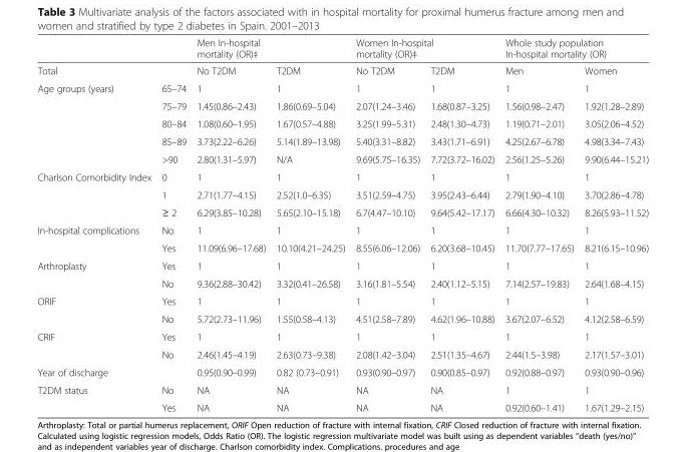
<table><thead><tr><td rowspan="2">Total</td><td rowspan="2"></td><td colspan="2">Men In-hospital mortality (OR)‡</td><td colspan="2">Women In-hospital mortality (OR)‡</td><td colspan="2">Whole study population In-hospital mortality (OR)</td></tr><tr><td>No T2DM</td><td>T2DM</td><td>No T2DM</td><td>T2DM</td><td>Men</td><td>Women</td></tr></thead><tbody><tr><td rowspan="5">Age groups (years)</td><td>65–74</td><td>1</td><td>1</td><td>1</td><td>1</td><td>1</td><td>1</td></tr><tr><td>75–79</td><td>1.45(0.86–2.43)</td><td>1.86(0.69–5.04)</td><td>2.07(1.24–3.46)</td><td>1.68(0.87–3.25)</td><td>1.56(0.98–2.47)</td><td>1.92(1.28–2.89)</td></tr><tr><td>80–84</td><td>1.08(0.60–1.95)</td><td>1.67(0.57–4.88)</td><td>3.25(1.99–5.31)</td><td>2.48(1.30–4.73)</td><td>1.19(0.71–2.01)</td><td>3.05(2.06–4.52)</td></tr><tr><td>85–89</td><td>3.73(2.22–6.26)</td><td>5.14(1.89–13.98)</td><td>5.40(3.31–8.82)</td><td>3.43(1.71–6.91)</td><td>4.25(2.67–6.78)</td><td>4.98(3.34–7.43)</td></tr><tr><td>&gt;90</td><td>2.80(1.31–5.97)</td><td>N/A</td><td>9.69(5.75–16.35)</td><td>7.72(3.72–16.02)</td><td>2.56(1.25–5.26)</td><td>9.90(6.44–15.21)</td></tr><tr><td rowspan="3">Charlson Comorbidity Index</td><td>0</td><td>1</td><td>1</td><td>1</td><td>1</td><td>1</td><td>1</td></tr><tr><td>1</td><td>2.71(1.77–4.15)</td><td>2.52(1.0–6.35)</td><td>3.51(2.59–4.75)</td><td>3.95(2.43–6.44)</td><td>2.79(1.90–4.10)</td><td>3.70(2.86–4.78)</td></tr><tr><td>≥ 2</td><td>6.29(3.85–10.28)</td><td>5.65(2.10–15.18)</td><td>6.7(4.47–10.10)</td><td>9.64(5.42–17.17)</td><td>6.66(4.30–10.32)</td><td>8.26(5.93–11.52)</td></tr><tr><td rowspan="2">In-hospital complications</td><td>No</td><td>1</td><td>1</td><td>1</td><td>1</td><td>1</td><td>1</td></tr><tr><td>Yes</td><td>11.09(6.96–17.68)</td><td>10.10(4.21–24.25)</td><td>8.55(6.06–12.06)</td><td>6.20(3.68–10.45)</td><td>11.70(7.77–17.65)</td><td>8.21(6.15–10.96)</td></tr><tr><td rowspan="2">Arthroplasty</td><td>Yes</td><td>1</td><td>1</td><td>1</td><td>1</td><td>1</td><td>1</td></tr><tr><td>No</td><td>9.36(2.88–30.42)</td><td>3.32(0.41–26.58)</td><td>3.16(1.81–5.54)</td><td>2.40(1.12–5.15)</td><td>7.14(2.57–19.83)</td><td>2.64(1.68–4.15)</td></tr><tr><td rowspan="2">ORIF</td><td>Yes</td><td>1</td><td>1</td><td>1</td><td>1</td><td>1</td><td>1</td></tr><tr><td>No</td><td>5.72(2.73–11.96)</td><td>1.55(0.58–4.13)</td><td>4.51(2.58–7.89)</td><td>4.62(1.96–10.88)</td><td>3.67(2.07–6.52)</td><td>4.12(2.58–6.59)</td></tr><tr><td rowspan="2">CRIF</td><td>Yes</td><td>1</td><td>1</td><td>1</td><td>1</td><td>1</td><td>1</td></tr><tr><td>No</td><td>2.46(1.45–4.19)</td><td>2.63(0.73–9.38)</td><td>2.08(1.42–3.04)</td><td>2.51(1.35–4.67)</td><td>2.44(1.5–3.98)</td><td>2.17(1.57–3.01)</td></tr><tr><td>Year of discharge</td><td></td><td>0.95(0.90–0.99)</td><td>0.82 (0.73–0.91)</td><td>0.93(0.90–0.97)</td><td>0.90(0.85–0.97)</td><td>0.92(0.88–0.97)</td><td>0.93(0.90–0.96)</td></tr><tr><td rowspan="2">T2DM status</td><td>No</td><td>NA</td><td>NA</td><td>NA</td><td>NA</td><td>1</td><td>1</td></tr><tr><td>Yes</td><td>NA</td><td>NA</td><td>NA</td><td>NA</td><td>0.92(0.60–1.41)</td><td>1.67(1.29–2.15)</td></tr></tbody></table>